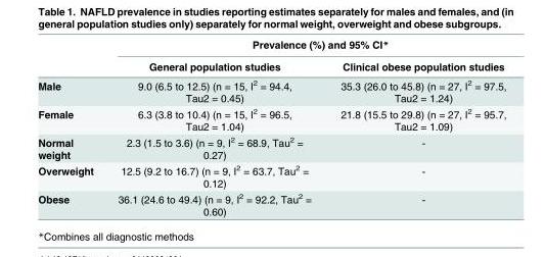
<table><thead><tr><td rowspan="2"></td><td colspan="2">Prevalence (%) and 95% CI*</td></tr><tr><td>General population studies</td><td>Clinical obese population studies</td></tr></thead><tbody><tr><td>Male</td><td>9.0 (6.5 to 12.5) (n = 15, I<sup>2</sup> = 94.4, Tau2 = 0.45)</td><td>35.3 (26.0 to 45.8) (n = 27, I<sup>2</sup> = 97.5, Tau2 = 1.24)</td></tr><tr><td>Female</td><td>6.3 (3.8 to 10.4) (n = 15, I<sup>2</sup> = 96.5, Tau2 = 1.04)</td><td>21.8 (15.5 to 29.8) (n = 27, I<sup>2</sup> = 95.7, Tau2 = 1.09)</td></tr><tr><td>Normal weight</td><td>2.3 (1.5 to 3.6) (n = 9, I<sup>2</sup> = 68.9, Tau<sup>2</sup> = 0.27)</td><td>-</td></tr><tr><td>Overweight</td><td>12.5 (9.2 to 16.7) (n = 9, I<sup>2</sup> = 63.7, Tau<sup>2</sup> = 0.12)</td><td>-</td></tr><tr><td>Obese</td><td>36.1 (24.6 to 49.4) (n = 9, I<sup>2</sup> = 92.2, Tau<sup>2</sup> = 0.60)</td><td>-</td></tr></tbody></table>